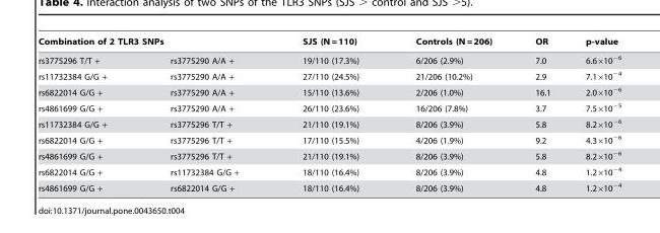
<table><thead><tr><td colspan="2">Combination of 2 TLR3 SNPs</td><td rowspan="2">SJS (N = 110) 19/110 (17.3%)</td><td rowspan="2">Controls (N = 206) 6/206 (2.9%)</td><td rowspan="2">OR 7.0</td><td rowspan="2">p-value 6.6×10<sup>−6</sup></td></tr><tr><td>rs3775296 T/T +</td><td>rs3775290 A/A +</td></tr></thead><tbody><tr><td>rs11732384 G/G +</td><td>rs3775290 A/A +</td><td>27/110 (24.5%)</td><td>21/206 (10.2%)</td><td>2.9</td><td>7.1×10<sup>−4</sup></td></tr><tr><td>rs6822014 G/G +</td><td>rs3775290 A/A +</td><td>15/110 (13.6%)</td><td>2/206 (1.0%)</td><td>16.1</td><td>2.0×10<sup>−6</sup></td></tr><tr><td>rs4861699 G/G +</td><td>rs3775290 A/A +</td><td>26/110 (23.6%)</td><td>16/206 (7.8%)</td><td>3.7</td><td>7.5×10<sup>−5</sup></td></tr><tr><td>rs11732384 G/G +</td><td>rs3775296 T/T +</td><td>21/110 (19.1%)</td><td>8/206 (3.9%)</td><td>5.8</td><td>8.2×10<sup>−6</sup></td></tr><tr><td>rs6822014 G/G +</td><td>rs3775296 T/T +</td><td>17/110 (15.5%)</td><td>4/206 (1.9%)</td><td>9.2</td><td>4.3×10<sup>−6</sup></td></tr><tr><td>rs4861699 G/G +</td><td>rs3775296 T/T +</td><td>21/110 (19.1%)</td><td>8/206 (3.9%)</td><td>5.8</td><td>8.2×10<sup>−6</sup></td></tr><tr><td>rs6822014 G/G +</td><td>rs11732384 G/G +</td><td>18/110 (16.4%)</td><td>8/206 (3.9%)</td><td>4.8</td><td>1.2×10<sup>−4</sup></td></tr><tr><td>rs4861699 G/G +</td><td>rs6822014 G/G +</td><td>18/110 (16.4%)</td><td>8/206 (3.9%)</td><td>4.8</td><td>1.2×10<sup>−4</sup></td></tr></tbody></table>